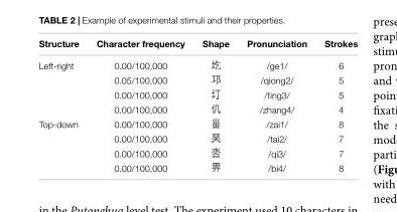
<table><thead><tr><td>Structure</td><td>Character frequency</td><td>Shape</td><td>Pronunciation</td><td>Strokes</td></tr></thead><tbody><tr><td rowspan="4">Left-right</td><td>0.00/100,000</td><td></td><td>/ge1/</td><td>6</td></tr><tr><td>0.05/100,000</td><td></td><td>/qiong2/</td><td>5</td></tr><tr><td>0.00/100,000</td><td></td><td>/ting3/</td><td>5</td></tr><tr><td>0.00/100,000</td><td></td><td>/zhang4/</td><td>4</td></tr><tr><td rowspan="4">Top-down</td><td>0.00/100,000</td><td></td><td>/zai1/</td><td>8</td></tr><tr><td>0.00/100,000</td><td></td><td>/tai2/</td><td>7</td></tr><tr><td>0.00/100,000</td><td></td><td>/qi3/</td><td>7</td></tr><tr><td>0.00/100,000</td><td></td><td>/bi4/</td><td>8</td></tr></tbody></table>